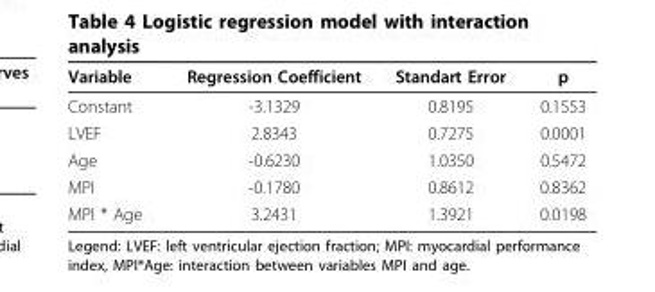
<table><thead><tr><td>Variable</td><td>Regression Coefficient</td><td>Standart Error</td><td>p</td></tr></thead><tbody><tr><td>Constant</td><td>-3.1329</td><td>0.8195</td><td>0.1553</td></tr><tr><td>LVEF</td><td>2.8343</td><td>0.7275</td><td>0.0001</td></tr><tr><td>Age</td><td>-0.6230</td><td>1.0350</td><td>0.5472</td></tr><tr><td>MPI</td><td>-0.1780</td><td>0.8612</td><td>0.8362</td></tr><tr><td>MPI * Age</td><td>3.2431</td><td>1.3921</td><td>0.0198</td></tr></tbody></table>